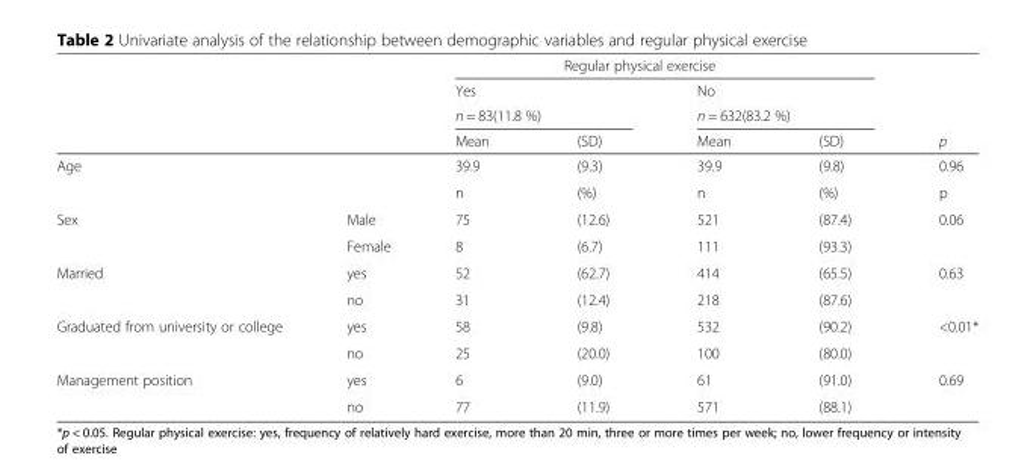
<table><thead><tr><td rowspan="4"></td><td rowspan="4"></td><td colspan="4">Regular physical exercise</td><td rowspan="4">p</td></tr><tr><td>Yes</td><td></td><td>No</td><td></td></tr><tr><td colspan="2">n = 83(11.8 %)</td><td colspan="2">n = 632(83.2 %)</td></tr><tr><td>Mean</td><td>(SD)</td><td>Mean</td><td>(SD)</td></tr></thead><tbody><tr><td rowspan="2" colspan="2">Age</td><td>39.9</td><td>(9.3)</td><td>39.9</td><td>(9.8)</td><td>0.96</td></tr><tr><td>n</td><td>(%)</td><td>n</td><td>(%)</td><td>p</td></tr><tr><td rowspan="2">Sex</td><td>Male</td><td>75</td><td>(12.6)</td><td>521</td><td>(87.4)</td><td rowspan="2">0.06</td></tr><tr><td>Female</td><td>8</td><td>(6.7)</td><td>111</td><td>(93.3)</td></tr><tr><td rowspan="2">Married</td><td>yes</td><td>52</td><td>(62.7)</td><td>414</td><td>(65.5)</td><td rowspan="2">0.63</td></tr><tr><td>no</td><td>31</td><td>(12.4)</td><td>218</td><td>(87.6)</td></tr><tr><td rowspan="2">Graduated from university or college</td><td>yes</td><td>58</td><td>(9.8)</td><td>532</td><td>(90.2)</td><td rowspan="2">&lt;0.01*</td></tr><tr><td>no</td><td>25</td><td>(20.0)</td><td>100</td><td>(80.0)</td></tr><tr><td rowspan="2">Management position</td><td>yes</td><td>6</td><td>(9.0)</td><td>61</td><td>(91.0)</td><td>0.69</td></tr><tr><td>no</td><td>77</td><td>(11.9)</td><td>571</td><td>(88.1)</td><td></td></tr></tbody></table>